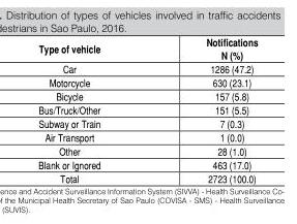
<table><thead><tr><td>Type of vehicle</td><td>Notifications N (%)</td></tr></thead><tbody><tr><td>Car</td><td>1286 (47.2)</td></tr><tr><td>Motorcycle</td><td>630 (23.1)</td></tr><tr><td>Bicycle</td><td>157 (5.8)</td></tr><tr><td>Bus/Truck/Other</td><td>151 (5.5)</td></tr><tr><td>Subway or Train</td><td>7 (0.3)</td></tr><tr><td>Air Transport</td><td>1 (0.0)</td></tr><tr><td>Other</td><td>28 (1.0)</td></tr><tr><td>Blank or Ignored</td><td>463 (17.0)</td></tr><tr><td>Total</td><td>2723 (100.0)</td></tr></tbody></table>